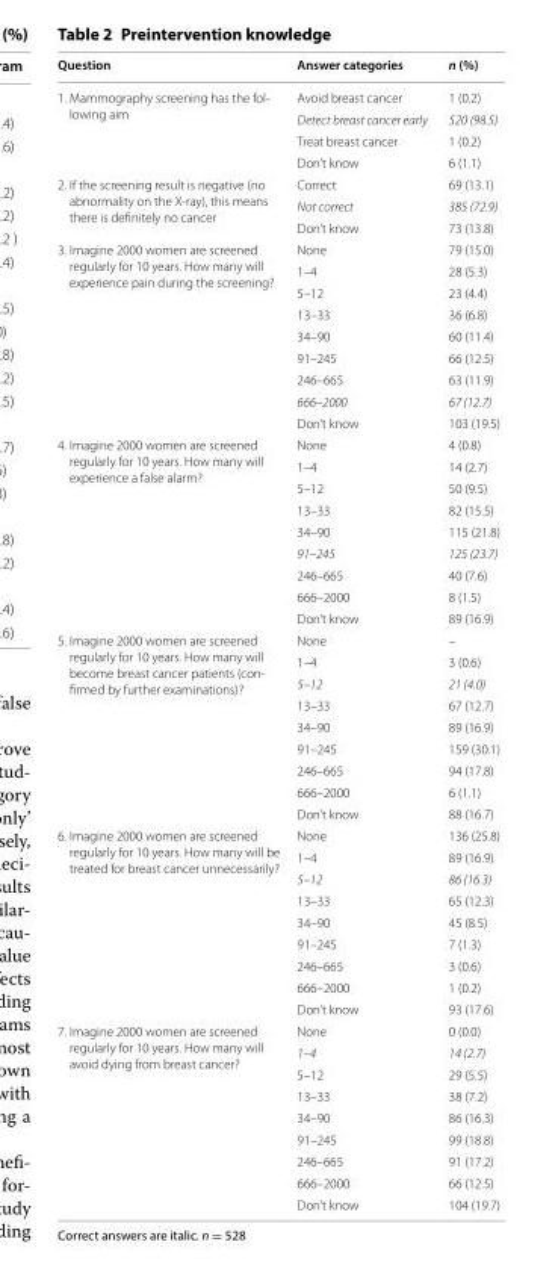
<table><thead><tr><td>Question</td><td>Answer categories</td><td>n (%)</td></tr></thead><tbody><tr><td rowspan="4">1. Mammography screening has the fol- lowing aim</td><td>Avoid breast cancer</td><td>1 (0.2)</td></tr><tr><td>Detect breast cancer early</td><td>520 (98.5)</td></tr><tr><td>Treat breast cancer</td><td>1 (0.2)</td></tr><tr><td>Don’t know</td><td>6 (1.1)</td></tr><tr><td rowspan="3">2. If the screening result is negative (no abnormality on the X-ray), this means there is definitely no cancer</td><td>Correct</td><td>69 (13.1)</td></tr><tr><td>Not correct</td><td>385 (72.9)</td></tr><tr><td>Don’t know</td><td>73 (13.8)</td></tr><tr><td rowspan="9">3. Imagine 2000 women are screened regularly for 10 years. How many will experience pain during the screening?</td><td>None</td><td>79 (15.0)</td></tr><tr><td>1–4</td><td>28 (5.3)</td></tr><tr><td>5–12</td><td>23 (4.4)</td></tr><tr><td>13–33</td><td>36 (6.8)</td></tr><tr><td>34–90</td><td>60 (11.4)</td></tr><tr><td>91–245</td><td>66 (12.5)</td></tr><tr><td>246–665</td><td>63 (11.9)</td></tr><tr><td>666–2000</td><td>67 (12.7)</td></tr><tr><td>Don’t know</td><td>103 (19.5)</td></tr><tr><td rowspan="9">4. Imagine 2000 women are screened regularly for 10 years. How many will experience a false alarm?</td><td>None</td><td>4 (0.8)</td></tr><tr><td>1–4</td><td>14 (2.7)</td></tr><tr><td>5–12</td><td>50 (9.5)</td></tr><tr><td>13–33</td><td>82 (15.5)</td></tr><tr><td>34–90</td><td>115 (21.8)</td></tr><tr><td>91–245</td><td>125 (23.7)</td></tr><tr><td>246–665</td><td>40 (7.6)</td></tr><tr><td>666–2000</td><td>8 (1.5)</td></tr><tr><td>Don’t know</td><td>89 (16.9)</td></tr><tr><td rowspan="9">5. Imagine 2000 women are screened regularly for 10 years. How many will become breast cancer patients (con- firmed by further examinations)?</td><td>None</td><td>–</td></tr><tr><td>1–4</td><td>3 (0.6)</td></tr><tr><td>5–12</td><td>21 (4.0)</td></tr><tr><td>13–33</td><td>67 (12.7)</td></tr><tr><td>34–90</td><td>89 (16.9)</td></tr><tr><td>91–245</td><td>159 (30.1)</td></tr><tr><td>246–665</td><td>94 (17.8)</td></tr><tr><td>666–2000</td><td>6 (1.1)</td></tr><tr><td>Don’t know</td><td>88 (16.7)</td></tr><tr><td rowspan="9">6. Imagine 2000 women are screened regularly for 10 years. How many will be treated for breast cancer unnecessarily?</td><td>None</td><td>136 (25.8)</td></tr><tr><td>1–4</td><td>89 (16.9)</td></tr><tr><td>5–12</td><td>86 (16.3)</td></tr><tr><td>13–33</td><td>65 (12.3)</td></tr><tr><td>34–90</td><td>45 (8.5)</td></tr><tr><td>91–245</td><td>7 (1.3)</td></tr><tr><td>246–665</td><td>3 (0.6)</td></tr><tr><td>666–2000</td><td>1 (0.2)</td></tr><tr><td>Don’t know</td><td>93 (17.6)</td></tr><tr><td rowspan="9">7. Imagine 2000 women are screened regularly for 10 years. How many will avoid dying from breast cancer?</td><td>None</td><td>0 (0.0)</td></tr><tr><td>1–4</td><td>14 (2.7)</td></tr><tr><td>5–12</td><td>29 (5.5)</td></tr><tr><td>13–33</td><td>38 (7.2)</td></tr><tr><td>34–90</td><td>86 (16.3)</td></tr><tr><td>91–245</td><td>99 (18.8)</td></tr><tr><td>246–665</td><td>91 (17.2)</td></tr><tr><td>666–2000</td><td>66 (12.5)</td></tr><tr><td>Don’t know</td><td>104 (19.7)</td></tr></tbody></table>